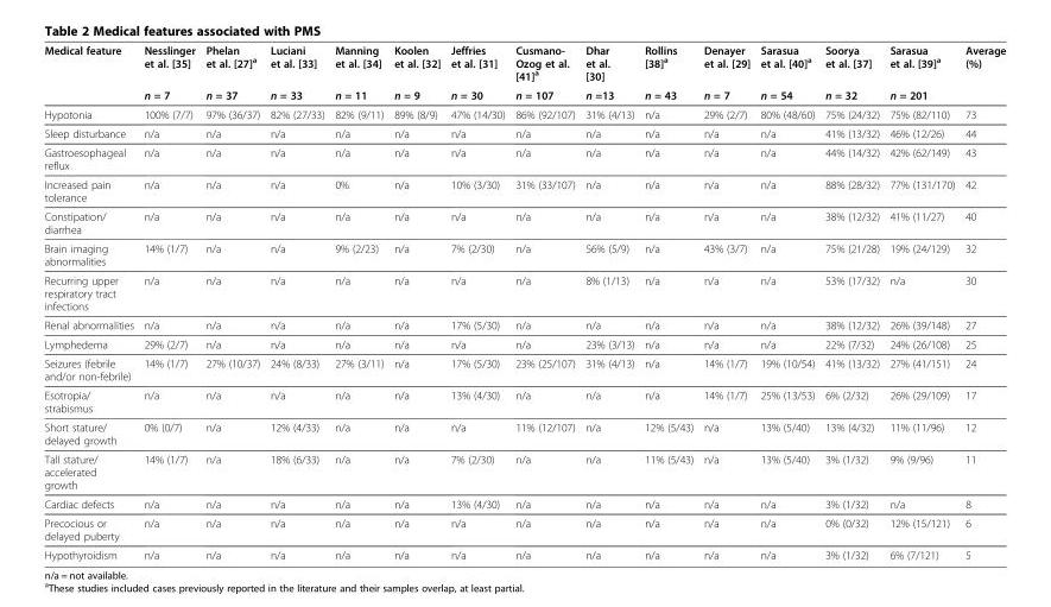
<table><thead><tr><td rowspan="2">Medical feature</td><td rowspan="2">Nesslinger et al. [35] n = 7</td><td rowspan="2">Phelan et al. [27]a n = 37</td><td rowspan="2">Luciani et al. [33] n = 33</td><td rowspan="2">Manning et al. [34] n = 11</td><td rowspan="2">Koolen et al. [32] n = 9</td><td rowspan="2">Jeffries et al. [31] n = 30</td><td rowspan="2">Cusmano- Ozog et al. [41]a n = 107</td><td rowspan="2">Dhar et al. [30] n =13</td><td rowspan="2">Rollins [38]a n = 43</td><td rowspan="2">Denayer et al. [29] n = 7</td><td rowspan="2">Sarasua et al. [40]a n = 54</td><td rowspan="2">Soorya et al. [37] n = 32</td><td rowspan="2">Sarasua et al. [39]a n = 201</td><td rowspan="2">Average (%)</td></tr><tr></tr></thead><tbody><tr><td>Hypotonia</td><td>100% (7/7)</td><td>97% (36/37)</td><td>82% (27/33)</td><td>82% (9/11)</td><td>89% (8/9)</td><td>47% (14/30)</td><td>86% (92/107)</td><td>31% (4/13)</td><td>n/a</td><td>29% (2/7)</td><td>80% (48/60)</td><td>75% (24/32)</td><td>75% (82/110)</td><td>73</td></tr><tr><td>Sleep disturbance</td><td>n/a</td><td>n/a</td><td>n/a</td><td>n/a</td><td>n/a</td><td>n/a</td><td>n/a</td><td>n/a</td><td>n/a</td><td>n/a</td><td>n/a</td><td>41% (13/32)</td><td>46% (12/26)</td><td>44</td></tr><tr><td>Gastroesophageal reflux</td><td>n/a</td><td>n/a</td><td>n/a</td><td>n/a</td><td>n/a</td><td>n/a</td><td>n/a</td><td>n/a</td><td>n/a</td><td>n/a</td><td>n/a</td><td>44% (14/32)</td><td>42% (62/149)</td><td>43</td></tr><tr><td>Increased pain tolerance</td><td>n/a</td><td>n/a</td><td>n/a</td><td>0%</td><td>n/a</td><td>10% (3/30)</td><td>31% (33/107)</td><td>n/a</td><td>n/a</td><td>n/a</td><td>n/a</td><td>88% (28/32)</td><td>77% (131/170)</td><td>42</td></tr><tr><td>Constipation/ diarrhea</td><td>n/a</td><td>n/a</td><td>n/a</td><td>n/a</td><td>n/a</td><td>n/a</td><td>n/a</td><td>n/a</td><td>n/a</td><td>n/a</td><td>n/a</td><td>38% (12/32)</td><td>41% (11/27)</td><td>40</td></tr><tr><td>Brain imaging abnormalities</td><td>14% (1/7)</td><td>n/a</td><td>n/a</td><td>9% (2/23)</td><td>n/a</td><td>7% (2/30)</td><td>n/a</td><td>56% (5/9)</td><td>n/a</td><td>43% (3/7)</td><td>n/a</td><td>75% (21/28)</td><td>19% (24/129)</td><td>32</td></tr><tr><td>Recurring upper respiratory tract infections</td><td>n/a</td><td>n/a</td><td>n/a</td><td>n/a</td><td>n/a</td><td>n/a</td><td>n/a</td><td>8% (1/13)</td><td>n/a</td><td>n/a</td><td>n/a</td><td>53% (17/32)</td><td>n/a</td><td>30</td></tr><tr><td>Renal abnormalities</td><td>n/a</td><td>n/a</td><td>n/a</td><td>n/a</td><td>n/a</td><td>17% (5/30)</td><td>n/a</td><td>n/a</td><td>n/a</td><td>n/a</td><td>n/a</td><td>38% (12/32)</td><td>26% (39/148)</td><td>27</td></tr><tr><td>Lymphedema</td><td>29% (2/7)</td><td>n/a</td><td>n/a</td><td>n/a</td><td>n/a</td><td>n/a</td><td>n/a</td><td>23% (3/13)</td><td>n/a</td><td>n/a</td><td>n/a</td><td>22% (7/32)</td><td>24% (26/108)</td><td>25</td></tr><tr><td>Seizures (febrile and/or non-febrile)</td><td>14% (1/7)</td><td>27% (10/37)</td><td>24% (8/33)</td><td>27% (3/11)</td><td>n/a</td><td>17% (5/30)</td><td>23% (25/107)</td><td>31% (4/13)</td><td>n/a</td><td>14% (1/7)</td><td>19% (10/54)</td><td>41% (13/32)</td><td>27% (41/151)</td><td>24</td></tr><tr><td>Esotropia/ strabismus</td><td>n/a</td><td>n/a</td><td>n/a</td><td>n/a</td><td>n/a</td><td>13% (4/30)</td><td>n/a</td><td>n/a</td><td>n/a</td><td>14% (1/7)</td><td>25% (13/53)</td><td>6% (2/32)</td><td>26% (29/109)</td><td>17</td></tr><tr><td>Short stature/ delayed growth</td><td>0% (0/7)</td><td>n/a</td><td>12% (4/33)</td><td>n/a</td><td>n/a</td><td>n/a</td><td>11% (12/107)</td><td>n/a</td><td>12% (5/43)</td><td>n/a</td><td>13% (5/40)</td><td>13% (4/32)</td><td>11% (11/96)</td><td>12</td></tr><tr><td>Tall stature/ accelerated growth</td><td>14% (1/7)</td><td>n/a</td><td>18% (6/33)</td><td>n/a</td><td>n/a</td><td>7% (2/30)</td><td>n/a</td><td>n/a</td><td>11% (5/43)</td><td>n/a</td><td>13% (5/40)</td><td>3% (1/32)</td><td>9% (9/96)</td><td>11</td></tr><tr><td>Cardiac defects</td><td>n/a</td><td>n/a</td><td>n/a</td><td>n/a</td><td>n/a</td><td>13% (4/30)</td><td>n/a</td><td>n/a</td><td>n/a</td><td>n/a</td><td>n/a</td><td>3% (1/32)</td><td>n/a</td><td>8</td></tr><tr><td>Precocious or delayed puberty</td><td>n/a</td><td>n/a</td><td>n/a</td><td>n/a</td><td>n/a</td><td>n/a</td><td>n/a</td><td>n/a</td><td>n/a</td><td>n/a</td><td>n/a</td><td>0% (0/32)</td><td>12% (15/121)</td><td>6</td></tr><tr><td>Hypothyroidism</td><td>n/a</td><td>n/a</td><td>n/a</td><td>n/a</td><td>n/a</td><td>n/a</td><td>n/a</td><td>n/a</td><td>n/a</td><td>n/a</td><td>n/a</td><td>3% (1/32)</td><td>6% (7/121)</td><td>5</td></tr></tbody></table>